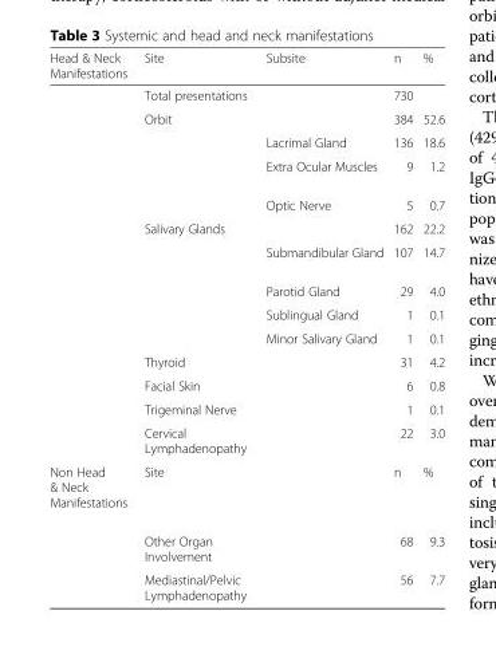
<table><thead><tr><td>Head &amp; Neck Manifestations</td><td>Site</td><td>Subsite</td><td>n</td><td>%</td></tr></thead><tbody><tr><td></td><td>Total presentations</td><td></td><td>730</td><td></td></tr><tr><td></td><td>Orbit</td><td></td><td>384</td><td>52.6</td></tr><tr><td></td><td></td><td>Lacrimal Gland</td><td>136</td><td>18.6</td></tr><tr><td></td><td></td><td>Extra Ocular Muscles</td><td>9</td><td>1.2</td></tr><tr><td></td><td></td><td>Optic Nerve</td><td>5</td><td>0.7</td></tr><tr><td></td><td>Salivary Glands</td><td></td><td>162</td><td>22.2</td></tr><tr><td></td><td></td><td>Submandibular Gland</td><td>107</td><td>14.7</td></tr><tr><td></td><td></td><td>Parotid Gland</td><td>29</td><td>4.0</td></tr><tr><td></td><td></td><td>Sublingual Gland</td><td>1</td><td>0.1</td></tr><tr><td></td><td></td><td>Minor Salivary Gland</td><td>1</td><td>0.1</td></tr><tr><td></td><td>Thyroid</td><td></td><td>31</td><td>4.2</td></tr><tr><td></td><td>Facial Skin</td><td></td><td>6</td><td>0.8</td></tr><tr><td></td><td>Trigeminal Nerve</td><td></td><td>1</td><td>0.1</td></tr><tr><td></td><td>Cervical Lymphadenopathy</td><td></td><td>22</td><td>3.0</td></tr><tr><td rowspan="3">Non Head &amp; Neck Manifestations</td><td>Site</td><td></td><td>n</td><td>%</td></tr><tr><td>Other Organ Involvement</td><td></td><td>68</td><td>9.3</td></tr><tr><td>Mediastinal/Pelvic Lymphadenopathy</td><td></td><td>56</td><td>7.7</td></tr></tbody></table>